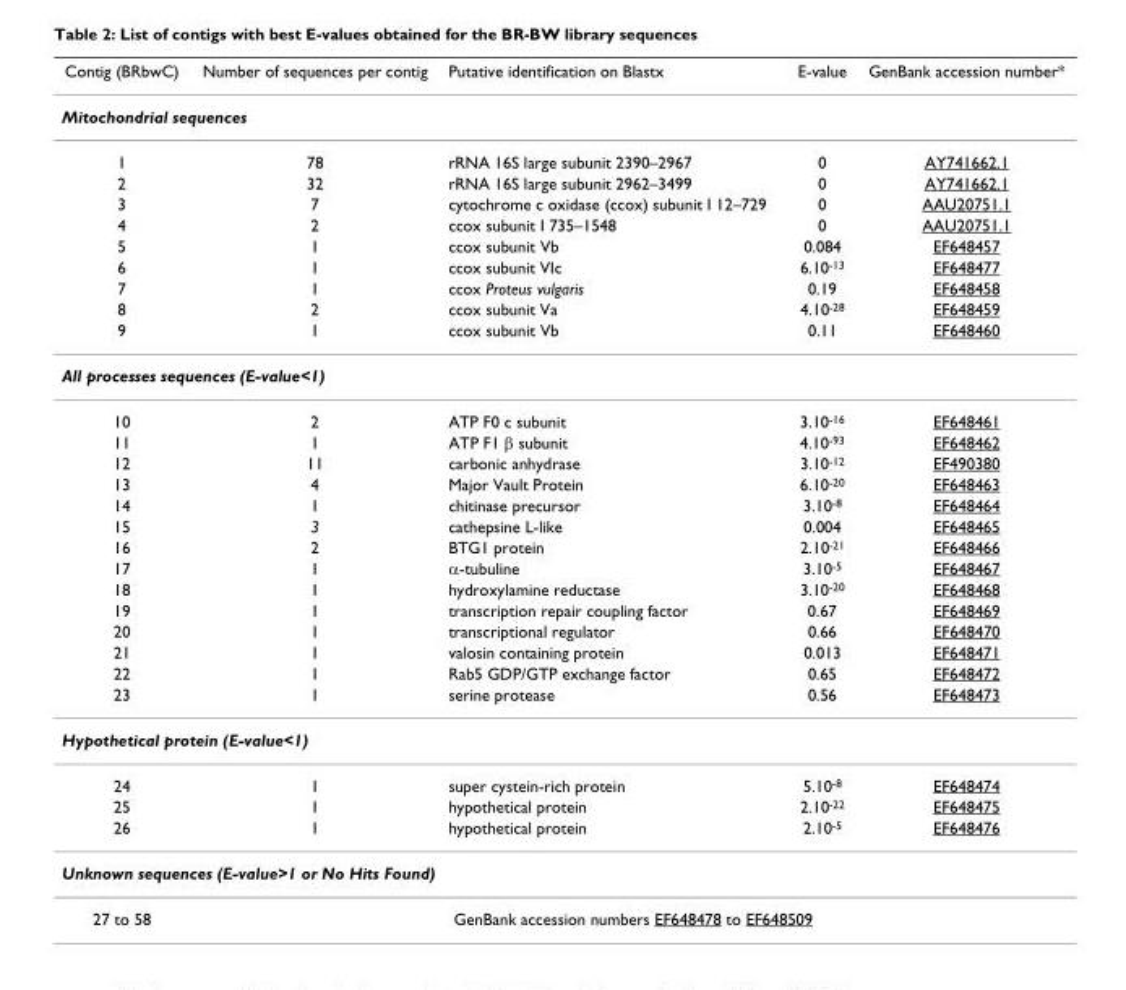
<table><thead><tr><td>Contig (BRbwC)</td><td>Number of sequences per contig</td><td>Putative identification on Blastx</td><td>E-value</td><td>GenBank accession number*</td></tr></thead><tbody><tr><td colspan="5">Mitochondrial sequences</td></tr><tr><td>1</td><td>78</td><td>rRNA 16S large subunit 2390–2967</td><td>0</td><td>AY741662.1</td></tr><tr><td>2</td><td>32</td><td>rRNA 16S large subunit 2962–3499</td><td>0</td><td>AY741662.1</td></tr><tr><td>3</td><td>7</td><td>cytochrome c oxidase (ccox) subunit I 12–729</td><td>0</td><td>AAU20751.1</td></tr><tr><td>4</td><td>2</td><td>ccox subunit I 735–1548</td><td>0</td><td>AAU20751.1</td></tr><tr><td>5</td><td>1</td><td>ccox subunit Vb</td><td>0.084</td><td>EF648457</td></tr><tr><td>6</td><td>1</td><td>ccox subunit VIc</td><td>6.10<sup>-13</sup></td><td>EF648477</td></tr><tr><td>7</td><td>1</td><td>ccox Proteus vulgaris</td><td>0.19</td><td>EF648458</td></tr><tr><td>8</td><td>2</td><td>ccox subunit Va</td><td>4.10<sup>-28</sup></td><td>EF648459</td></tr><tr><td>9</td><td>1</td><td>ccox subunit Vb</td><td>0.11</td><td>EF648460</td></tr><tr><td colspan="5">All processes sequences (E-value&lt;1)</td></tr><tr><td>10</td><td>2</td><td>ATP F0 c subunit</td><td>3.10<sup>-16</sup></td><td>EF648461</td></tr><tr><td>11</td><td>1</td><td>ATP F1 β subunit</td><td>4.10<sup>-93</sup></td><td>EF648462</td></tr><tr><td>12</td><td>11</td><td>carbonic anhydrase</td><td>3.10<sup>-12</sup></td><td>EF490380</td></tr><tr><td>13</td><td>4</td><td>Major Vault Protein</td><td>6.10<sup>-20</sup></td><td>EF648463</td></tr><tr><td>14</td><td>1</td><td>chitinase precursor</td><td>3.10<sup>-8</sup></td><td>EF648464</td></tr><tr><td>15</td><td>3</td><td>cathepsine L-like</td><td>0.004</td><td>EF648465</td></tr><tr><td>16</td><td>2</td><td>BTG1 protein</td><td>2.10<sup>-21</sup></td><td>EF648466</td></tr><tr><td>17</td><td>1</td><td>α-tubuline</td><td>3.10<sup>-5</sup></td><td>EF648467</td></tr><tr><td>18</td><td>1</td><td>hydroxylamine reductase</td><td>3.10<sup>-20</sup></td><td>EF648468</td></tr><tr><td>19</td><td>1</td><td>transcription repair coupling factor</td><td>0.67</td><td>EF648469</td></tr><tr><td>20</td><td>1</td><td>transcriptional regulator</td><td>0.66</td><td>EF648470</td></tr><tr><td>21</td><td>1</td><td>valosin containing protein</td><td>0.013</td><td>EF648471</td></tr><tr><td>22</td><td>1</td><td>Rab5 GDP/GTP exchange factor</td><td>0.65</td><td>EF648472</td></tr><tr><td>23</td><td>1</td><td>serine protease</td><td>0.56</td><td>EF648473</td></tr><tr><td colspan="5">Hypothetical protein (E-value&lt;1)</td></tr><tr><td>24</td><td>1</td><td>super cystein-rich protein</td><td>5.10<sup>-8</sup></td><td>EF648474</td></tr><tr><td>25</td><td>1</td><td>hypothetical protein</td><td>2.10<sup>-22</sup></td><td>EF648475</td></tr><tr><td>26</td><td>1</td><td>hypothetical protein</td><td>2.10<sup>-5</sup></td><td>EF648476</td></tr><tr><td colspan="5">Unknown sequences (E-value&gt;1 or No Hits Found)</td></tr><tr><td>27 to 58</td><td colspan="4">GenBank accession numbers EF648478 to EF648509</td></tr></tbody></table>